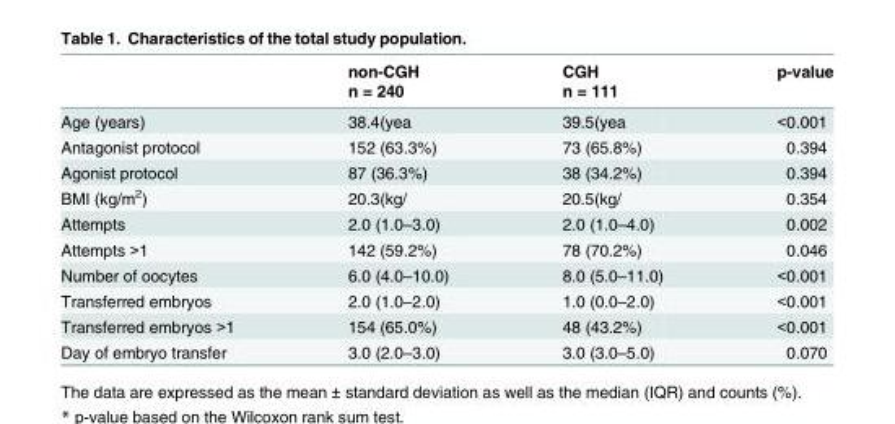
<table><thead><tr><td rowspan="2"></td><td rowspan="2">non-CGH n = 240</td><td rowspan="2">CGH n = 111</td><td rowspan="2">p-value</td></tr><tr></tr></thead><tbody><tr><td>Age (years)</td><td>38.4(yea</td><td>39.5(yea</td><td>&lt;0.001</td></tr><tr><td>Antagonist protocol</td><td>152 (63.3%)</td><td>73 (65.8%)</td><td>0.394</td></tr><tr><td>Agonist protocol</td><td>87 (36.3%)</td><td>38 (34.2%)</td><td>0.394</td></tr><tr><td>BMI (kg/m<sup>2</sup>)</td><td>20.3(kg/</td><td>20.5(kg/</td><td>0.354</td></tr><tr><td>Attempts</td><td>2.0 (1.0–3.0)</td><td>2.0 (1.0–4.0)</td><td>0.002</td></tr><tr><td>Attempts &gt;1</td><td>142 (59.2%)</td><td>78 (70.2%)</td><td>0.046</td></tr><tr><td>Number of oocytes</td><td>6.0 (4.0–10.0)</td><td>8.0 (5.0–11.0)</td><td>&lt;0.001</td></tr><tr><td>Transferred embryos</td><td>2.0 (1.0–2.0)</td><td>1.0 (0.0–2.0)</td><td>&lt;0.001</td></tr><tr><td>Transferred embryos &gt;1</td><td>154 (65.0%)</td><td>48 (43.2%)</td><td>&lt;0.001</td></tr><tr><td>Day of embryo transfer</td><td>3.0 (2.0–3.0)</td><td>3.0 (3.0–5.0)</td><td>0.070</td></tr></tbody></table>